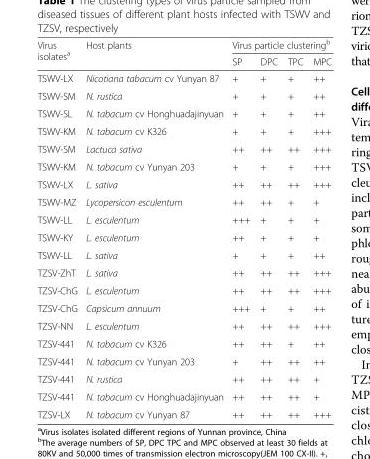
<table><thead><tr><td rowspan="2">Virus isolates<sup>a</sup></td><td rowspan="2">Host plants</td><td colspan="4">Virus particle clustering<sup>b</sup></td></tr><tr><td>SP</td><td>DPC</td><td>TPC</td><td>MPC</td></tr></thead><tbody><tr><td>TSWV-LX</td><td>Nicotiana tabacum cv Yunyan 87</td><td>+</td><td>+</td><td>+</td><td>++</td></tr><tr><td>TSWV-SM</td><td>N. rustica</td><td>+</td><td>+</td><td>+</td><td>++</td></tr><tr><td>TSWV-SL</td><td>N. tabacum cv Honghuadajinyuan</td><td>+</td><td>+</td><td>+</td><td>++</td></tr><tr><td>TSWV-KM</td><td>N. tabacum cv K326</td><td>+</td><td>+</td><td>+</td><td>+++</td></tr><tr><td>TSWV-SM</td><td>Lactuca sativa</td><td>++</td><td>++</td><td>++</td><td>+++</td></tr><tr><td>TSWV-KM</td><td>N. tabacum cv Yunyan 203</td><td>+</td><td>+</td><td>+</td><td>+++</td></tr><tr><td>TSWV-LX</td><td>L. sativa</td><td>++</td><td>++</td><td>++</td><td>+++</td></tr><tr><td>TSWV-MZ</td><td>Lycopersicon esculentum</td><td>++</td><td>++</td><td>+</td><td>+</td></tr><tr><td>TSWV-LL</td><td>L. esculentum</td><td>+++</td><td>+</td><td>+</td><td>+</td></tr><tr><td>TSWV-KY</td><td>L. esculentum</td><td>++</td><td>+</td><td>+</td><td>+</td></tr><tr><td>TSWV-LL</td><td>L. sativa</td><td>+</td><td>+</td><td>+</td><td>++</td></tr><tr><td>TZSV-ZhT</td><td>L. sativa</td><td>++</td><td>++</td><td>++</td><td>+++</td></tr><tr><td>TZSV-ChG</td><td>L. esculentum</td><td>++</td><td>++</td><td>++</td><td>+++</td></tr><tr><td>TZSV-ChG</td><td>Capsicum annuum</td><td>+++</td><td>+</td><td>+</td><td>++</td></tr><tr><td>TZSV-NN</td><td>L. esculentum</td><td>++</td><td>++</td><td>++</td><td>+++</td></tr><tr><td>TZSV-441</td><td>N. tabacum cv K326</td><td>++</td><td>++</td><td>+</td><td>++</td></tr><tr><td>TZSV-441</td><td>N. tabacum cv Yunyan 203</td><td>+</td><td>++</td><td>++</td><td>++</td></tr><tr><td>TZSV-441</td><td>N. rustica</td><td>++</td><td>++</td><td>++</td><td>+</td></tr><tr><td>TZSV-441</td><td>N. tabacum cv Honghuadajinyuan</td><td>++</td><td>++</td><td>++</td><td>+</td></tr><tr><td>TZSV-LX</td><td>N. tabacum cv Yunyan 87</td><td>++</td><td>++</td><td>++</td><td>+++</td></tr></tbody></table>